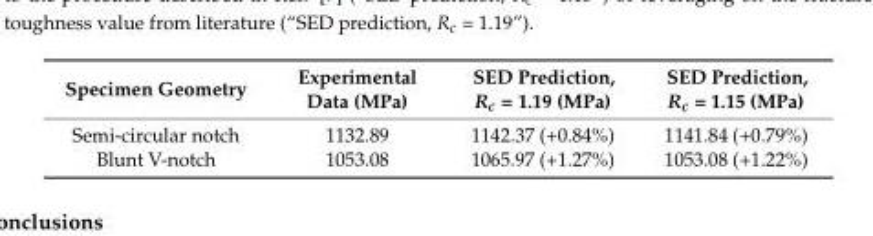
<table><thead><tr><td>Specimen Geometry</td><td>Experimental Data (MPa)</td><td>SED Prediction, R<sub>c</sub> = 1.19 (MPa)</td><td>SED Prediction, R<sub>c</sub> = 1.15 (MPa)</td></tr></thead><tbody><tr><td>Semi-circular notch</td><td>1132.89</td><td>1142.37 (+0.84%)</td><td>1141.84 (+0.79%)</td></tr><tr><td>Blunt V-notch</td><td>1053.08</td><td>1065.97 (+1.27%)</td><td>1053.08 (+1.22%)</td></tr></tbody></table>